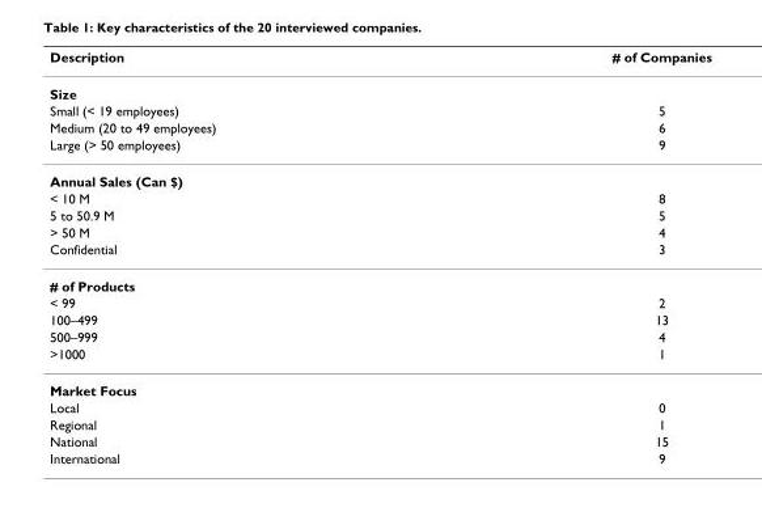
<table><thead><tr><td>Description</td><td># of Companies</td></tr></thead><tbody><tr><td colspan="2">Size</td></tr><tr><td>Small (&lt; 19 employees)</td><td>5</td></tr><tr><td>Medium (20 to 49 employees)</td><td>6</td></tr><tr><td>Large (&gt; 50 employees)</td><td>9</td></tr><tr><td colspan="2">Annual Sales (Can $)</td></tr><tr><td>&lt; 10 M</td><td>8</td></tr><tr><td>5 to 50.9 M</td><td>5</td></tr><tr><td>&gt; 50 M</td><td>4</td></tr><tr><td>Confidential</td><td>3</td></tr><tr><td colspan="2"># of Products</td></tr><tr><td>&lt; 99</td><td>2</td></tr><tr><td>100–499</td><td>13</td></tr><tr><td>500–999</td><td>4</td></tr><tr><td>&gt;1000</td><td>1</td></tr><tr><td colspan="2">Market Focus</td></tr><tr><td>Local</td><td>0</td></tr><tr><td>Regional</td><td>1</td></tr><tr><td>National</td><td>15</td></tr><tr><td>International</td><td>9</td></tr></tbody></table>